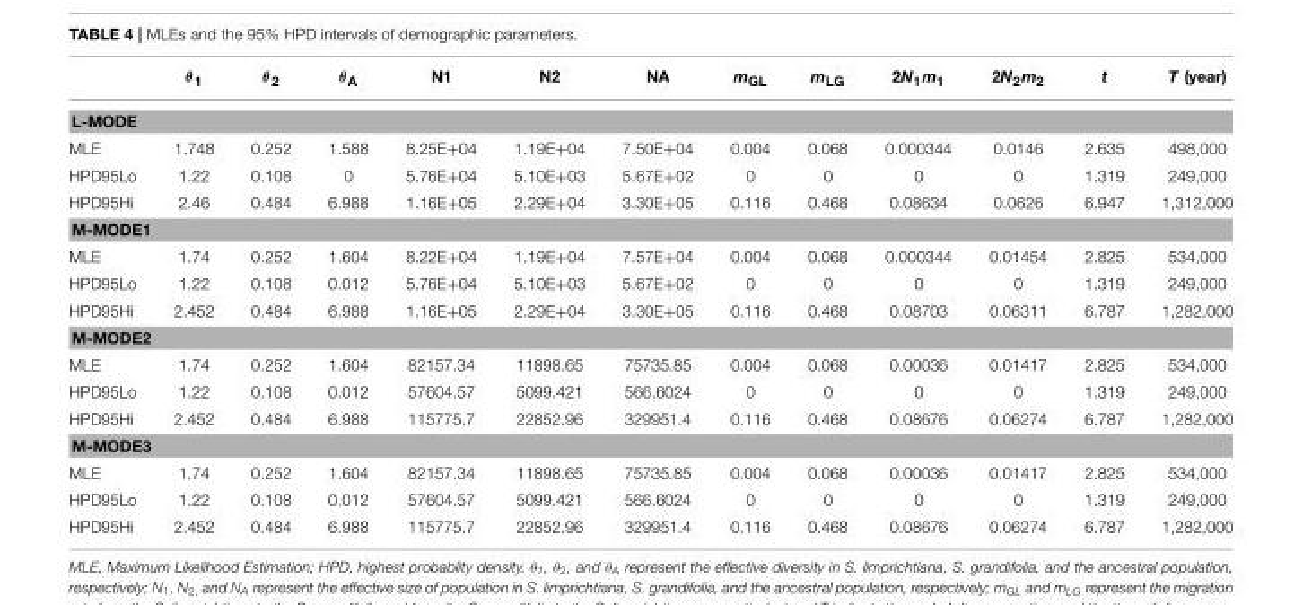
<table><thead><tr><td></td><td>θ<sub>1</sub></td><td>θ<sub>2</sub></td><td>θ<sub>A</sub></td><td>N1</td><td>N2</td><td>NA</td><td>m<sub>GL</sub></td><td>m<sub>LG</sub></td><td>2N<sub>1</sub>m<sub>1</sub></td><td>2N<sub>2</sub>m<sub>2</sub></td><td>t</td><td>T (year)</td></tr></thead><tbody><tr><td colspan="13">L-MODE</td></tr><tr><td>MLE</td><td>1.748</td><td>0.252</td><td>1.588</td><td>8.25E+04</td><td>1.19E+04</td><td>7.50E+04</td><td>0.004</td><td>0.068</td><td>0.000344</td><td>0.0146</td><td>2.635</td><td>498,000</td></tr><tr><td>HPD95Lo</td><td>1.22</td><td>0.108</td><td>0</td><td>5.76E+04</td><td>5.10E+03</td><td>5.67E+02</td><td>0</td><td>0</td><td>0</td><td>0</td><td>1.319</td><td>249,000</td></tr><tr><td>HPD95Hi</td><td>2.46</td><td>0.484</td><td>6.988</td><td>1.16E+05</td><td>2.29E+04</td><td>3.30E+05</td><td>0.116</td><td>0.468</td><td>0.08634</td><td>0.0626</td><td>6.947</td><td>1,312,000</td></tr><tr><td colspan="13">M-MODE1</td></tr><tr><td>MLE</td><td>1.74</td><td>0.252</td><td>1.604</td><td>8.22E+04</td><td>1.19E+04</td><td>7.57E+04</td><td>0.004</td><td>0.068</td><td>0.000344</td><td>0.01454</td><td>2.825</td><td>534,000</td></tr><tr><td>HPD95Lo</td><td>1.22</td><td>0.108</td><td>0.012</td><td>5.76E+04</td><td>5.10E+03</td><td>5.67E+02</td><td>0</td><td>0</td><td>0</td><td>0</td><td>1.319</td><td>249,000</td></tr><tr><td>HPD95Hi</td><td>2.452</td><td>0.484</td><td>6.988</td><td>1.16E+05</td><td>2.29E+04</td><td>3.30E+05</td><td>0.116</td><td>0.468</td><td>0.08703</td><td>0.06311</td><td>6.787</td><td>1,282,000</td></tr><tr><td colspan="13">M-MODE2</td></tr><tr><td>MLE</td><td>1.74</td><td>0.252</td><td>1.604</td><td>82157.34</td><td>11898.65</td><td>75735.85</td><td>0.004</td><td>0.068</td><td>0.00036</td><td>0.01417</td><td>2.825</td><td>534,000</td></tr><tr><td>HPD95Lo</td><td>1.22</td><td>0.108</td><td>0.012</td><td>57604.57</td><td>5099.421</td><td>566.6024</td><td>0</td><td>0</td><td>0</td><td>0</td><td>1.319</td><td>249,000</td></tr><tr><td>HPD95Hi</td><td>2.452</td><td>0.484</td><td>6.988</td><td>115775.7</td><td>22852.96</td><td>329951.4</td><td>0.116</td><td>0.468</td><td>0.08676</td><td>0.06274</td><td>6.787</td><td>1,282,000</td></tr><tr><td colspan="13">M-MODE3</td></tr><tr><td>MLE</td><td>1.74</td><td>0.252</td><td>1.604</td><td>82157.34</td><td>11898.65</td><td>75735.85</td><td>0.004</td><td>0.068</td><td>0.00036</td><td>0.01417</td><td>2.825</td><td>534,000</td></tr><tr><td>HPD95Lo</td><td>1.22</td><td>0.108</td><td>0.012</td><td>57604.57</td><td>5099.421</td><td>566.6024</td><td>0</td><td>0</td><td>0</td><td>0</td><td>1.319</td><td>249,000</td></tr><tr><td>HPD95Hi</td><td>2.452</td><td>0.484</td><td>6.988</td><td>115775.7</td><td>22852.96</td><td>329951.4</td><td>0.116</td><td>0.468</td><td>0.08676</td><td>0.06274</td><td>6.787</td><td>1,282,000</td></tr></tbody></table>